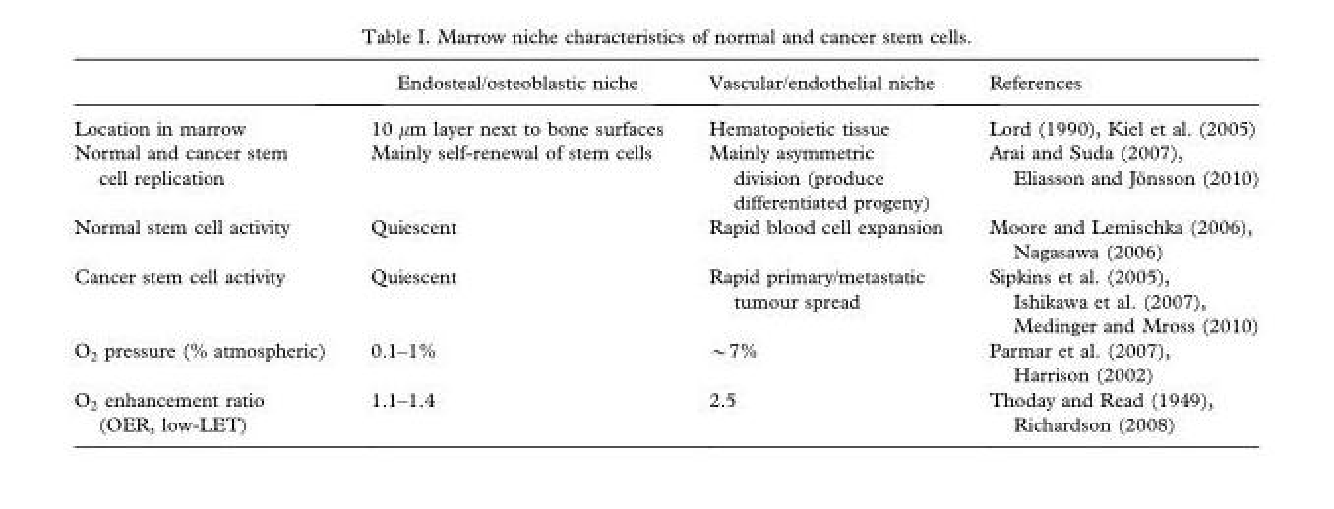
<table><thead><tr><td></td><td>Endosteal/osteoblastic niche</td><td>Vascular/endothelial niche</td><td>References</td></tr></thead><tbody><tr><td>Location in marrow</td><td>10 μm layer next to bone surfaces</td><td>Hematopoietic tissue</td><td>Lord (1990), Kiel et al. (2005)</td></tr><tr><td>Normal and cancer stem cell replication</td><td>Mainly self-renewal of stem cells</td><td>Mainly asymmetric division (produce differentiated progeny)</td><td>Arai and Suda (2007), Eliasson and Jo¨nsson (2010)</td></tr><tr><td>Normal stem cell activity</td><td>Quiescent</td><td>Rapid blood cell expansion</td><td>Moore and Lemischka (2006), Nagasawa (2006)</td></tr><tr><td>Cancer stem cell activity</td><td>Quiescent</td><td>Rapid primary/metastatic tumour spread</td><td>Sipkins et al. (2005), Ishikawa et al. (2007), Medinger and Mross (2010)</td></tr><tr><td>O<sub>2</sub> pressure (% atmospheric)</td><td>0.1–1%</td><td>*7%</td><td>Parmar et al. (2007), Harrison (2002)</td></tr><tr><td>O<sub>2</sub> enhancement ratio (OER, low-LET)</td><td>1.1–1.4</td><td>2.5</td><td>Thoday and Read (1949), Richardson (2008)</td></tr></tbody></table>